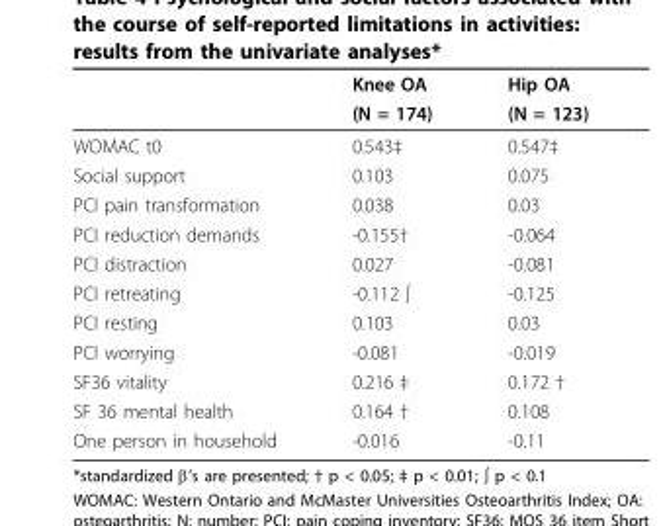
<table><thead><tr><td rowspan="2"></td><td rowspan="2">Knee OA (N = 174)</td><td rowspan="2">Hip OA (N = 123)</td></tr><tr></tr></thead><tbody><tr><td>WOMAC t0</td><td>0.543‡</td><td>0.547‡</td></tr><tr><td>Social support</td><td>0.103</td><td>0.075</td></tr><tr><td>PCI pain transformation</td><td>0.038</td><td>0.03</td></tr><tr><td>PCI reduction demands</td><td>-0.155†</td><td>-0.064</td></tr><tr><td>PCI distraction</td><td>0.027</td><td>-0.081</td></tr><tr><td>PCI retreating</td><td>-0.112 ∫</td><td>-0.125</td></tr><tr><td>PCI resting</td><td>0.103</td><td>0.03</td></tr><tr><td>PCI worrying</td><td>-0.081</td><td>-0.019</td></tr><tr><td>SF36 vitality</td><td>0.216 ‡</td><td>0.172 †</td></tr><tr><td>SF 36 mental health</td><td>0.164 †</td><td>0.108</td></tr><tr><td>One person in household</td><td>-0.016</td><td>-0.11</td></tr></tbody></table>